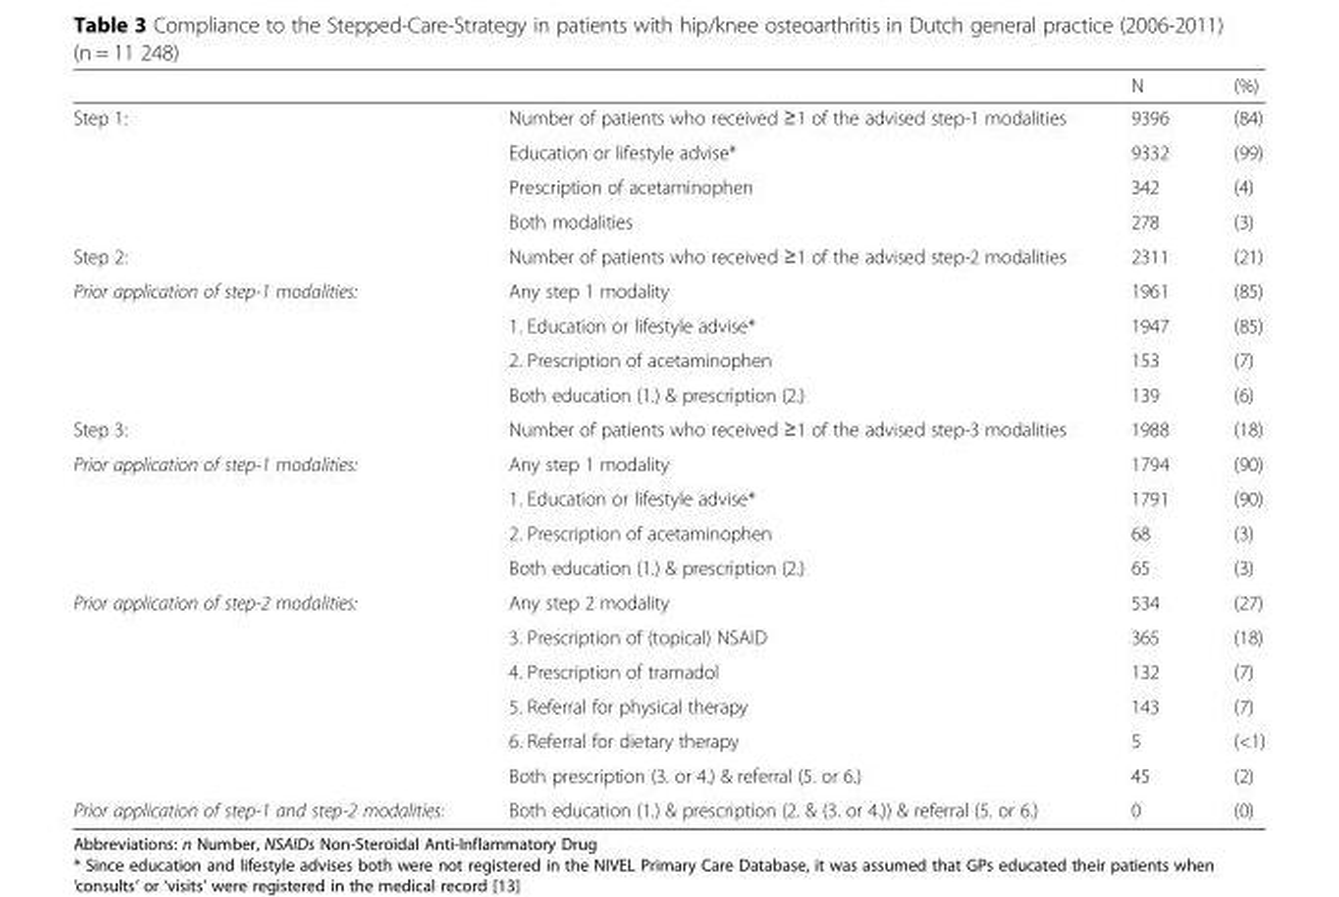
<table><thead><tr><td></td><td></td><td>N</td><td>(%)</td></tr></thead><tbody><tr><td rowspan="4">Step 1:</td><td>Number of patients who received ≥1 of the advised step-1 modalities</td><td>9396</td><td>(84)</td></tr><tr><td>Education or lifestyle advise*</td><td>9332</td><td>(99)</td></tr><tr><td>Prescription of acetaminophen</td><td>342</td><td>(4)</td></tr><tr><td>Both modalities</td><td>278</td><td>(3)</td></tr><tr><td>Step 2:</td><td>Number of patients who received ≥1 of the advised step-2 modalities</td><td>2311</td><td>(21)</td></tr><tr><td rowspan="4">Prior application of step-1 modalities:</td><td>Any step 1 modality</td><td>1961</td><td>(85)</td></tr><tr><td>1. Education or lifestyle advise*</td><td>1947</td><td>(85)</td></tr><tr><td>2. Prescription of acetaminophen</td><td>153</td><td>(7)</td></tr><tr><td>Both education (1.) &amp; prescription (2.)</td><td>139</td><td>(6)</td></tr><tr><td>Step 3:</td><td>Number of patients who received ≥1 of the advised step-3 modalities</td><td>1988</td><td>(18)</td></tr><tr><td rowspan="4">Prior application of step-1 modalities:</td><td>Any step 1 modality</td><td>1794</td><td>(90)</td></tr><tr><td>1. Education or lifestyle advise*</td><td>1791</td><td>(90)</td></tr><tr><td>2. Prescription of acetaminophen</td><td>68</td><td>(3)</td></tr><tr><td>Both education (1.) &amp; prescription (2.)</td><td>65</td><td>(3)</td></tr><tr><td rowspan="6">Prior application of step-2 modalities:</td><td>Any step 2 modality</td><td>534</td><td>(27)</td></tr><tr><td>3. Prescription of (topical) NSAID</td><td>365</td><td>(18)</td></tr><tr><td>4. Prescription of tramadol</td><td>132</td><td>(7)</td></tr><tr><td>5. Referral for physical therapy</td><td>143</td><td>(7)</td></tr><tr><td>6. Referral for dietary therapy</td><td>5</td><td>(&lt;1)</td></tr><tr><td>Both prescription (3. or 4.) &amp; referral (5. or 6.)</td><td>45</td><td>(2)</td></tr><tr><td>Prior application of step-1 and step-2 modalities:</td><td>Both education (1.) &amp; prescription (2. &amp; (3. or 4.)) &amp; referral (5. or 6.)</td><td>0</td><td>(0)</td></tr></tbody></table>